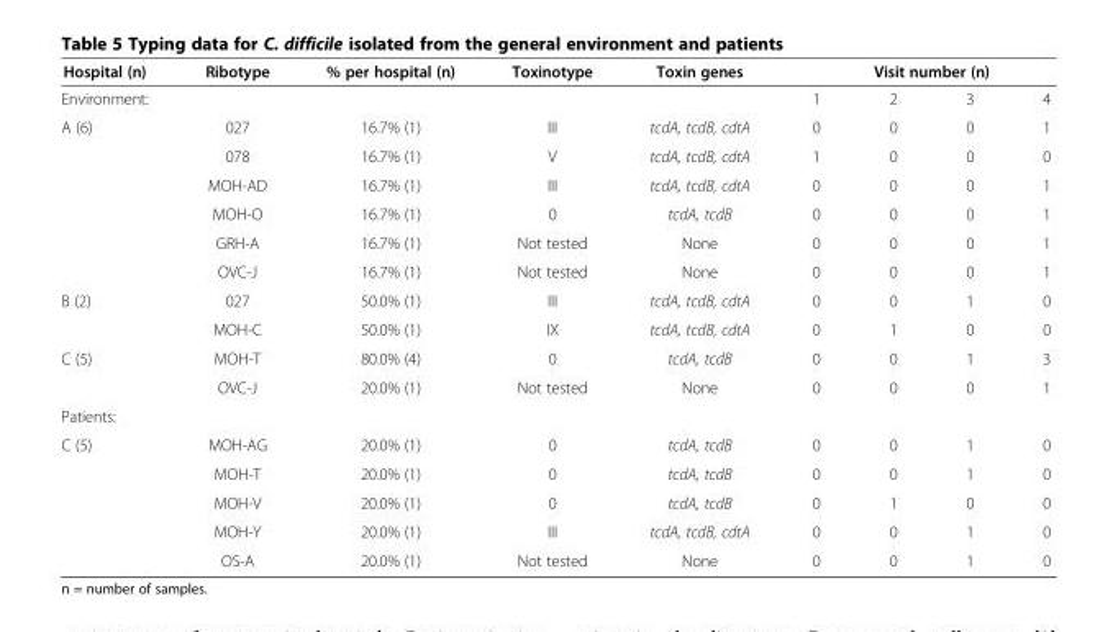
<table><thead><tr><td rowspan="2">Hospital (n) Environment:</td><td rowspan="2">Ribotype</td><td rowspan="2">% per hospital (n)</td><td rowspan="2">Toxinotype</td><td rowspan="2">Toxin genes</td><td colspan="4">Visit number (n)</td></tr><tr><td>1</td><td>2</td><td>3</td><td>4</td></tr></thead><tbody><tr><td rowspan="6">A (6)</td><td>027</td><td>16.7% (1)</td><td>III</td><td>tcdA, tcdB, cdtA</td><td>0</td><td>0</td><td>0</td><td>1</td></tr><tr><td>078</td><td>16.7% (1)</td><td>V</td><td>tcdA, tcdB, cdtA</td><td>1</td><td>0</td><td>0</td><td>0</td></tr><tr><td>MOH-AD</td><td>16.7% (1)</td><td>III</td><td>tcdA, tcdB, cdtA</td><td>0</td><td>0</td><td>0</td><td>1</td></tr><tr><td>MOH-O</td><td>16.7% (1)</td><td>0</td><td>tcdA, tcdB</td><td>0</td><td>0</td><td>0</td><td>1</td></tr><tr><td>GRH-A</td><td>16.7% (1)</td><td>Not tested</td><td>None</td><td>0</td><td>0</td><td>0</td><td>1</td></tr><tr><td>OVC-J</td><td>16.7% (1)</td><td>Not tested</td><td>None</td><td>0</td><td>0</td><td>0</td><td>1</td></tr><tr><td rowspan="2">B (2)</td><td>027</td><td>50.0% (1)</td><td>III</td><td>tcdA, tcdB, cdtA</td><td>0</td><td>0</td><td>1</td><td>0</td></tr><tr><td>MOH-C</td><td>50.0% (1)</td><td>IX</td><td>tcdA, tcdB, cdtA</td><td>0</td><td>1</td><td>0</td><td>0</td></tr><tr><td rowspan="2">C (5)</td><td>MOH-T</td><td>80.0% (4)</td><td>0</td><td>tcdA, tcdB</td><td>0</td><td>0</td><td>1</td><td>3</td></tr><tr><td>OVC-J</td><td>20.0% (1)</td><td>Not tested</td><td>None</td><td>0</td><td>0</td><td>0</td><td>1</td></tr><tr><td colspan="9">Patients:</td></tr><tr><td rowspan="5">C (5)</td><td>MOH-AG</td><td>20.0% (1)</td><td>0</td><td>tcdA, tcdB</td><td>0</td><td>0</td><td>1</td><td>0</td></tr><tr><td>MOH-T</td><td>20.0% (1)</td><td>0</td><td>tcdA, tcdB</td><td>0</td><td>0</td><td>1</td><td>0</td></tr><tr><td>MOH-V</td><td>20.0% (1)</td><td>0</td><td>tcdA, tcdB</td><td>0</td><td>1</td><td>0</td><td>0</td></tr><tr><td>MOH-Y</td><td>20.0% (1)</td><td>III</td><td>tcdA, tcdB, cdtA</td><td>0</td><td>0</td><td>1</td><td>0</td></tr><tr><td>OS-A</td><td>20.0% (1)</td><td>Not tested</td><td>None</td><td>0</td><td>0</td><td>1</td><td>0</td></tr></tbody></table>